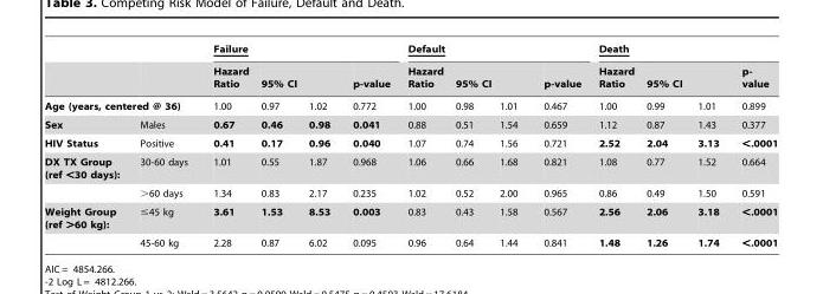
<table><thead><tr><td rowspan="2"></td><td rowspan="2"></td><td colspan="4">Failure</td><td colspan="4">Default</td><td colspan="4">Death</td></tr><tr><td rowspan="2">Hazard Ratio 1.00</td><td colspan="2">95% CI</td><td rowspan="2">p-value 0.772</td><td rowspan="2">Hazard Ratio 1.00</td><td colspan="2">95% CI</td><td rowspan="2">p-value 0.467</td><td rowspan="2">Hazard Ratio 1.00</td><td colspan="2">95% CI</td><td rowspan="2">p- value 0.899</td></tr><tr><td colspan="2">Age (years, centered @ 36)</td><td>0.97</td><td>1.02</td><td>0.98</td><td>1.01</td><td>0.99</td><td>1.01</td></tr></thead><tbody><tr><td>Sex</td><td>Males</td><td>0.67</td><td>0.46</td><td>0.98</td><td>0.041</td><td>0.88</td><td>0.51</td><td>1.54</td><td>0.659</td><td>1.12</td><td>0.87</td><td>1.43</td><td>0.377</td></tr><tr><td>HIV Status</td><td>Positive</td><td>0.41</td><td>0.17</td><td>0.96</td><td>0.040</td><td>1.07</td><td>0.74</td><td>1.56</td><td>0.721</td><td>2.52</td><td>2.04</td><td>3.13</td><td>&lt;.0001</td></tr><tr><td rowspan="2">DX TX Group (ref &lt;30 days):</td><td>30-60 days</td><td>1.01</td><td>0.55</td><td>1.87</td><td>0.968</td><td>1.06</td><td>0.66</td><td>1.68</td><td>0.821</td><td>1.08</td><td>0.77</td><td>1.52</td><td>0.664</td></tr><tr><td>&gt;60 days</td><td>1.34</td><td>0.83</td><td>2.17</td><td>0.235</td><td>1.02</td><td>0.52</td><td>2.00</td><td>0.965</td><td>0.86</td><td>0.49</td><td>1.50</td><td>0.591</td></tr><tr><td rowspan="2">Weight Group (ref &gt;60 kg):</td><td>≤45 kg</td><td>3.61</td><td>1.53</td><td>8.53</td><td>0.003</td><td>0.83</td><td>0.43</td><td>1.58</td><td>0.567</td><td>2.56</td><td>2.06</td><td>3.18</td><td>&lt;.0001</td></tr><tr><td>45-60 kg</td><td>2.28</td><td>0.87</td><td>6.02</td><td>0.095</td><td>0.96</td><td>0.64</td><td>1.44</td><td>0.841</td><td>1.48</td><td>1.26</td><td>1.74</td><td>&lt;.0001</td></tr></tbody></table>